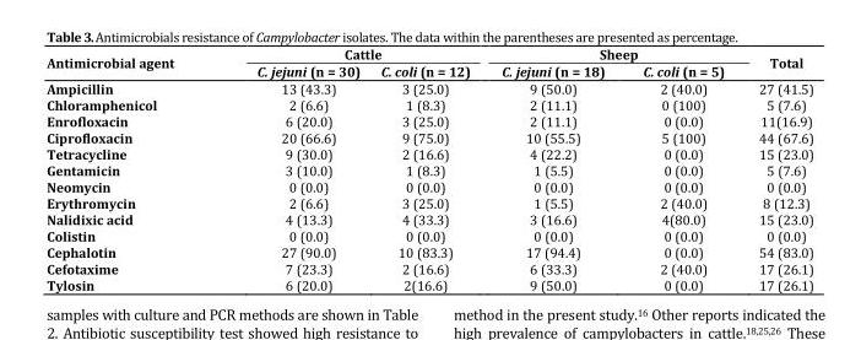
<table><thead><tr><td rowspan="2">Antimicrobial agent</td><td colspan="2">Cattle</td><td colspan="2">Sheep</td><td rowspan="2">Total</td></tr><tr><td>C. jejuni (n = 30)</td><td>C. coli (n = 12)</td><td>C. jejuni (n = 18)</td><td>C. coli (n = 5)</td></tr></thead><tbody><tr><td>Ampicillin</td><td>13 (43.3)</td><td>3 (25.0)</td><td>9 (50.0)</td><td>2 (40.0)</td><td>27 (41.5)</td></tr><tr><td>Chloramphenicol</td><td>2 (6.6)</td><td>1 (8.3)</td><td>2 (11.1)</td><td>0 (100)</td><td>5 (7.6)</td></tr><tr><td>Enrofloxacin</td><td>6 (20.0)</td><td>3 (25.0)</td><td>2 (11.1)</td><td>0 (0.0)</td><td>11(16.9)</td></tr><tr><td>Ciprofloxacin</td><td>20 (66.6)</td><td>9 (75.0)</td><td>10 (55.5)</td><td>5 (100)</td><td>44 (67.6)</td></tr><tr><td>Tetracycline</td><td>9 (30.0)</td><td>2 (16.6)</td><td>4 (22.2)</td><td>0 (0.0)</td><td>15 (23.0)</td></tr><tr><td>Gentamicin</td><td>3 (10.0)</td><td>1 (8.3)</td><td>1 (5.5)</td><td>0 (0.0)</td><td>5 (7.6)</td></tr><tr><td>Neomycin</td><td>0 (0.0)</td><td>0 (0.0)</td><td>0 (0.0)</td><td>0 (0.0)</td><td>0 (0.0)</td></tr><tr><td>Erythromycin</td><td>2 (6.6)</td><td>3 (25.0)</td><td>1 (5.5)</td><td>2 (40.0)</td><td>8 (12.3)</td></tr><tr><td>Nalidixic acid</td><td>4 (13.3)</td><td>4 (33.3)</td><td>3 (16.6)</td><td>4(80.0)</td><td>15 (23.0)</td></tr><tr><td>Colistin</td><td>0 (0.0)</td><td>0 (0.0)</td><td>0 (0.0)</td><td>0 (0.0)</td><td>0 (0.0)</td></tr><tr><td>Cephalotin</td><td>27 (90.0)</td><td>10 (83.3)</td><td>17 (94.4)</td><td>0 (0.0)</td><td>54 (83.0)</td></tr><tr><td>Cefotaxime</td><td>7 (23.3)</td><td>2 (16.6)</td><td>6 (33.3)</td><td>2 (40.0)</td><td>17 (26.1)</td></tr><tr><td>Tylosin</td><td>6 (20.0)</td><td>2(16.6)</td><td>9 (50.0)</td><td>0 (0.0)</td><td>17 (26.1)</td></tr></tbody></table>